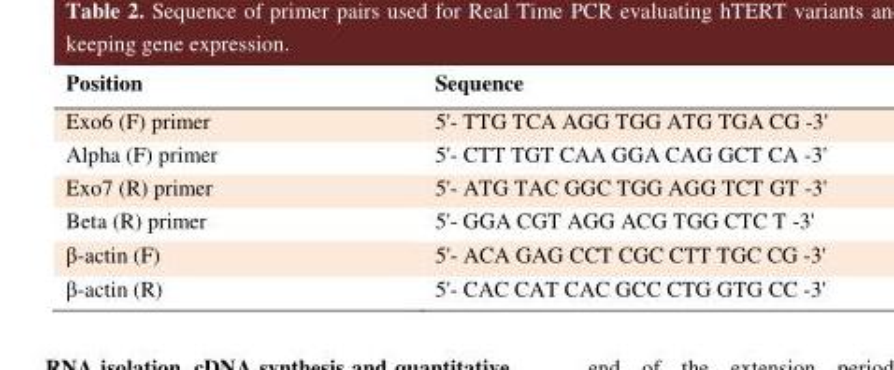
<table><thead><tr><td>Position</td><td>Sequence</td></tr></thead><tbody><tr><td>Exo6 (F) primer</td><td>5&#x27;- TTG TCA AGG TGG ATG TGA CG -3&#x27;</td></tr><tr><td>Alpha (F) primer</td><td>5&#x27;- CTT TGT CAA GGA CAG GCT CA -3&#x27;</td></tr><tr><td>Exo7 (R) primer</td><td>5&#x27;- ATG TAC GGC TGG AGG TCT GT -3&#x27;</td></tr><tr><td>Beta (R) primer</td><td>5&#x27;- GGA CGT AGG ACG TGG CTC T -3&#x27;</td></tr><tr><td>β-actin (F)</td><td>5&#x27;- ACA GAG CCT CGC CTT TGC CG -3&#x27;</td></tr><tr><td>β-actin (R)</td><td>5&#x27;- CAC CAT CAC GCC CTG GTG CC -3&#x27;</td></tr></tbody></table>